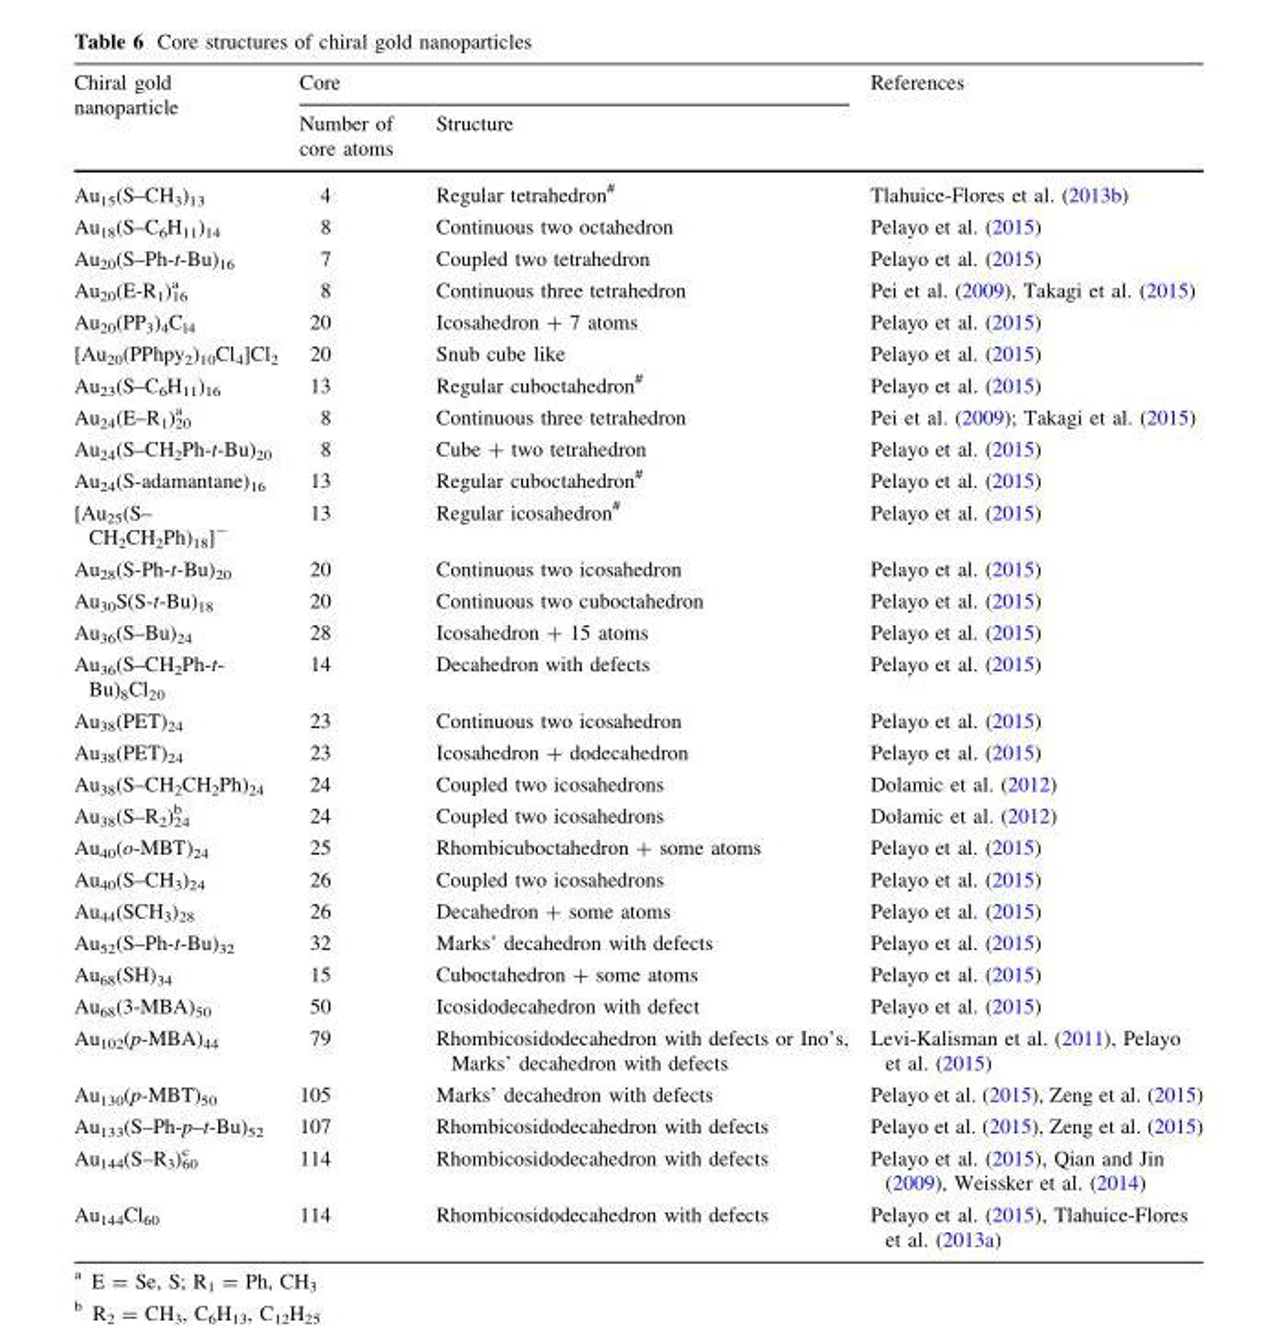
<table><thead><tr><td rowspan="2">Chiral gold nanoparticle</td><td colspan="2">Core</td><td rowspan="2">References</td></tr><tr><td>Number of core atoms</td><td>Structure</td></tr></thead><tbody><tr><td>Au<sub>15</sub>(S–CH<sub>3</sub>)<sub>13</sub></td><td>4</td><td>Regular tetrahedron<sup>#</sup></td><td>Tlahuice-Flores et al. (2013b)</td></tr><tr><td>Au<sub>18</sub>(S–C<sub>6</sub>H<sub>11</sub>)<sub>14</sub></td><td>8</td><td>Continuous two octahedron</td><td>Pelayo et al. (2015)</td></tr><tr><td>Au<sub>20</sub>(S–Ph-t-Bu)<sub>16</sub></td><td>7</td><td>Coupled two tetrahedron</td><td>Pelayo et al. (2015)</td></tr><tr><td>Au<sub>20</sub>(E-R<sub>1</sub>)<sub>16</sub> <sup>a</sup></td><td>8</td><td>Continuous three tetrahedron</td><td>Pei et al. (2009), Takagi et al. (2015)</td></tr><tr><td>Au<sub>20</sub>(PP<sub>3</sub>)<sub>4</sub>C<sub>l4</sub></td><td>20</td><td>Icosahedron + 7 atoms</td><td>Pelayo et al. (2015)</td></tr><tr><td>[Au<sub>20</sub>(PPhpy<sub>2</sub>)<sub>10</sub>Cl<sub>4</sub>]Cl<sub>2</sub></td><td>20</td><td>Snub cube like</td><td>Pelayo et al. (2015)</td></tr><tr><td>Au<sub>23</sub>(S–C<sub>6</sub>H<sub>11</sub>)<sub>16</sub></td><td>13</td><td>Regular cuboctahedron<sup>#</sup></td><td>Pelayo et al. (2015)</td></tr><tr><td>Au<sub>24</sub>(E–R<sub>1</sub>)<sub>20</sub> <sup>a</sup></td><td>8</td><td>Continuous three tetrahedron</td><td>Pei et al. (2009); Takagi et al. (2015)</td></tr><tr><td>Au<sub>24</sub>(S–CH<sub>2</sub>Ph-t-Bu)<sub>20</sub></td><td>8</td><td>Cube + two tetrahedron</td><td>Pelayo et al. (2015)</td></tr><tr><td>Au<sub>24</sub>(S-adamantane)<sub>16</sub></td><td>13</td><td>Regular cuboctahedron<sup>#</sup></td><td>Pelayo et al. (2015)</td></tr><tr><td>[Au<sub>25</sub>(S– CH<sub>2</sub>CH<sub>2</sub>Ph)<sub>18</sub>]<sup>-</sup></td><td>13</td><td>Regular icosahedron<sup>#</sup></td><td>Pelayo et al. (2015)</td></tr><tr><td>Au<sub>28</sub>(S-Ph-t-Bu)<sub>20</sub></td><td>20</td><td>Continuous two icosahedron</td><td>Pelayo et al. (2015)</td></tr><tr><td>Au<sub>30</sub>S(S-t-Bu)<sub>18</sub></td><td>20</td><td>Continuous two cuboctahedron</td><td>Pelayo et al. (2015)</td></tr><tr><td>Au<sub>36</sub>(S–Bu)<sub>24</sub></td><td>28</td><td>Icosahedron + 15 atoms</td><td>Pelayo et al. (2015)</td></tr><tr><td>Au<sub>36</sub>(S–CH<sub>2</sub>Ph-t- Bu)<sub>8</sub>Cl<sub>20</sub></td><td>14</td><td>Decahedron with defects</td><td>Pelayo et al. (2015)</td></tr><tr><td>Au<sub>38</sub>(PET)<sub>24</sub></td><td>23</td><td>Continuous two icosahedron</td><td>Pelayo et al. (2015)</td></tr><tr><td>Au<sub>38</sub>(PET)<sub>24</sub></td><td>23</td><td>Icosahedron + dodecahedron</td><td>Pelayo et al. (2015)</td></tr><tr><td>Au<sub>38</sub>(S–CH<sub>2</sub>CH<sub>2</sub>Ph)<sub>24</sub></td><td>24</td><td>Coupled two icosahedrons</td><td>Dolamic et al. (2012)</td></tr><tr><td>Au<sub>38</sub>(S–R<sub>2</sub>)<sub>24</sub> <sup>b</sup></td><td>24</td><td>Coupled two icosahedrons</td><td>Dolamic et al. (2012)</td></tr><tr><td>Au<sub>40</sub>(o-MBT)<sub>24</sub></td><td>25</td><td>Rhombicuboctahedron + some atoms</td><td>Pelayo et al. (2015)</td></tr><tr><td>Au<sub>40</sub>(S–CH<sub>3</sub>)<sub>24</sub></td><td>26</td><td>Coupled two icosahedrons</td><td>Pelayo et al. (2015)</td></tr><tr><td>Au<sub>44</sub>(SCH<sub>3</sub>)<sub>28</sub></td><td>26</td><td>Decahedron + some atoms</td><td>Pelayo et al. (2015)</td></tr><tr><td>Au<sub>52</sub>(S–Ph-t-Bu)<sub>32</sub></td><td>32</td><td>Marks’ decahedron with defects</td><td>Pelayo et al. (2015)</td></tr><tr><td>Au<sub>68</sub>(SH)<sub>34</sub></td><td>15</td><td>Cuboctahedron + some atoms</td><td>Pelayo et al. (2015)</td></tr><tr><td>Au<sub>68</sub>(3-MBA)<sub>50</sub></td><td>50</td><td>Icosidodecahedron with defect</td><td>Pelayo et al. (2015)</td></tr><tr><td>Au<sub>102</sub>(p-MBA)<sub>44</sub></td><td>79</td><td>Rhombicosidodecahedron with defects or Ino’s, Marks’ decahedron with defects</td><td>Levi-Kalisman et al. (2011), Pelayo et al. (2015)</td></tr><tr><td>Au<sub>130</sub>(p-MBT)<sub>50</sub></td><td>105</td><td>Marks’ decahedron with defects</td><td>Pelayo et al. (2015), Zeng et al. (2015)</td></tr><tr><td>Au<sub>133</sub>(S–Ph-p–t-Bu)<sub>52</sub></td><td>107</td><td>Rhombicosidodecahedron with defects</td><td>Pelayo et al. (2015), Zeng et al. (2015)</td></tr><tr><td>Au<sub>144</sub>(S–R<sub>3</sub>)<sub>60</sub> <sup>c</sup></td><td>114</td><td>Rhombicosidodecahedron with defects</td><td>Pelayo et al. (2015), Qian and Jin (2009), Weissker et al. (2014)</td></tr><tr><td>Au<sub>144</sub>Cl<sub>60</sub></td><td>114</td><td>Rhombicosidodecahedron with defects</td><td>Pelayo et al. (2015), Tlahuice-Flores et al. (2013a)</td></tr></tbody></table>